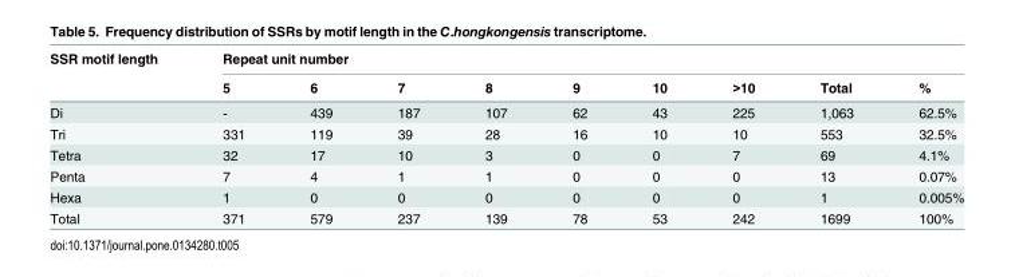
<table><thead><tr><td rowspan="2">SSR motif length</td><td colspan="9">Repeat unit number</td></tr><tr><td>5</td><td>6</td><td>7</td><td>8</td><td>9</td><td>10</td><td>&gt;10</td><td>Total</td><td>%</td></tr></thead><tbody><tr><td>Di</td><td>-</td><td>439</td><td>187</td><td>107</td><td>62</td><td>43</td><td>225</td><td>1,063</td><td>62.5%</td></tr><tr><td>Tri</td><td>331</td><td>119</td><td>39</td><td>28</td><td>16</td><td>10</td><td>10</td><td>553</td><td>32.5%</td></tr><tr><td>Tetra</td><td>32</td><td>17</td><td>10</td><td>3</td><td>0</td><td>0</td><td>7</td><td>69</td><td>4.1%</td></tr><tr><td>Penta</td><td>7</td><td>4</td><td>1</td><td>1</td><td>0</td><td>0</td><td>0</td><td>13</td><td>0.07%</td></tr><tr><td>Hexa</td><td>1</td><td>0</td><td>0</td><td>0</td><td>0</td><td>0</td><td>0</td><td>1</td><td>0.005%</td></tr><tr><td>Total</td><td>371</td><td>579</td><td>237</td><td>139</td><td>78</td><td>53</td><td>242</td><td>1699</td><td>100%</td></tr></tbody></table>